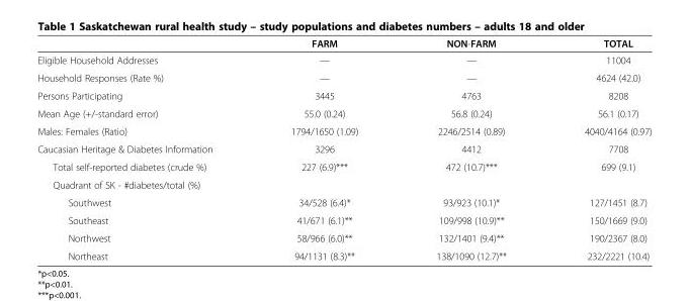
<table><thead><tr><td></td><td>FARM</td><td>NON-FARM</td><td>TOTAL</td></tr></thead><tbody><tr><td>Eligible Household Addresses</td><td>—</td><td>—</td><td>11004</td></tr><tr><td>Household Responses (Rate %)</td><td>—</td><td>—</td><td>4624 (42.0)</td></tr><tr><td>Persons Participating</td><td>3445</td><td>4763</td><td>8208</td></tr><tr><td>Mean Age (+/-standard error)</td><td>55.0 (0.24)</td><td>56.8 (0.24)</td><td>56.1 (0.17)</td></tr><tr><td>Males: Females (Ratio)</td><td>1794/1650 (1.09)</td><td>2246/2514 (0.89)</td><td>4040/4164 (0.97)</td></tr><tr><td>Caucasian Heritage &amp; Diabetes Information</td><td>3296</td><td>4412</td><td>7708</td></tr><tr><td>Total self-reported diabetes (crude %)</td><td>227 (6.9)***</td><td>472 (10.7)***</td><td>699 (9.1)</td></tr><tr><td colspan="4">Quadrant of SK - #diabetes/total (%)</td></tr><tr><td>Southwest</td><td>34/528 (6.4)*</td><td>93/923 (10.1)*</td><td>127/1451 (8.7)</td></tr><tr><td>Southeast</td><td>41/671 (6.1)**</td><td>109/998 (10.9)**</td><td>150/1669 (9.0)</td></tr><tr><td>Northwest</td><td>58/966 (6.0)**</td><td>132/1401 (9.4)**</td><td>190/2367 (8.0)</td></tr><tr><td>Northeast</td><td>94/1131 (8.3)**</td><td>138/1090 (12.7)**</td><td>232/2221 (10.4)</td></tr></tbody></table>